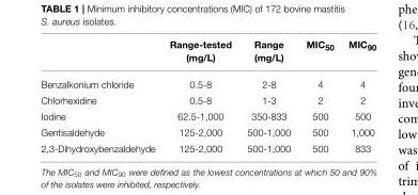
<table><thead><tr><td></td><td>Range-tested (mg/L)</td><td>Range (mg/L)</td><td>MIC<sub>50</sub></td><td>MIC<sub>90</sub></td></tr></thead><tbody><tr><td>Benzalkonium chloride</td><td>0.5-8</td><td>2-8</td><td>4</td><td>4</td></tr><tr><td>Chlorhexidine</td><td>0.5-8</td><td>1-3</td><td>2</td><td>2</td></tr><tr><td>Iodine</td><td>62.5-1,000</td><td>350-833</td><td>500</td><td>500</td></tr><tr><td>Gentisaldehyde</td><td>125-2,000</td><td>500-1,000</td><td>500</td><td>1,000</td></tr><tr><td>2,3-Dihydroxybenzaldehyde</td><td>125-2,000</td><td>500-1,000</td><td>500</td><td>833</td></tr></tbody></table>